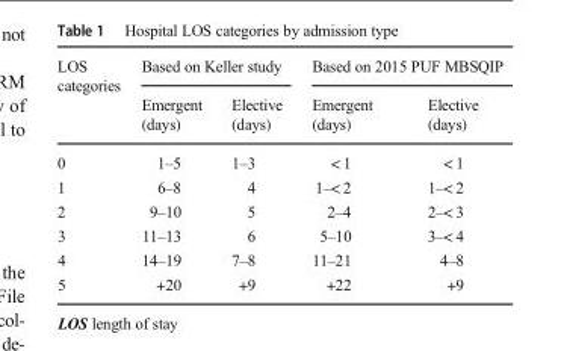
<table><thead><tr><td rowspan="2">LOS categories</td><td colspan="2">Based on Keller study</td><td colspan="2">Based on 2015 PUF MBSQIP</td></tr><tr><td>Emergent (days)</td><td>Elective (days)</td><td>Emergent (days)</td><td>Elective (days)</td></tr></thead><tbody><tr><td>0</td><td>1–5</td><td>1–3</td><td>&lt; 1</td><td>&lt; 1</td></tr><tr><td>1</td><td>6–8</td><td>4</td><td>1–&lt; 2</td><td>1–&lt; 2</td></tr><tr><td>2</td><td>9–10</td><td>5</td><td>2–4</td><td>2–&lt; 3</td></tr><tr><td>3</td><td>11–13</td><td>6</td><td>5–10</td><td>3–&lt; 4</td></tr><tr><td>4</td><td>14–19</td><td>7–8</td><td>11–21</td><td>4–8</td></tr><tr><td>5</td><td>+20</td><td>+9</td><td>+22</td><td>+9</td></tr></tbody></table>